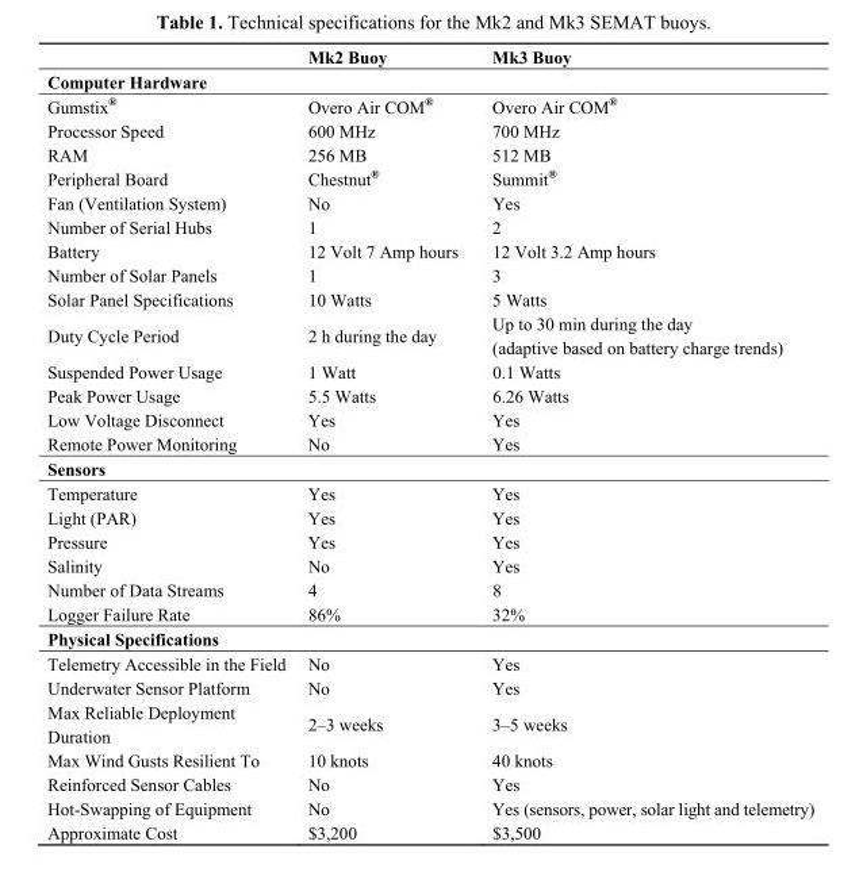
<table><thead><tr><td></td><td>Mk2 Buoy</td><td>Mk3 Buoy</td></tr><tr><td colspan="3">Computer Hardware</td></tr></thead><tbody><tr><td>Gumstix<sup>®</sup></td><td>Overo Air COM<sup>®</sup></td><td>Overo Air COM<sup>®</sup></td></tr><tr><td>Processor Speed</td><td>600 MHz</td><td>700 MHz</td></tr><tr><td>RAM</td><td>256 MB</td><td>512 MB</td></tr><tr><td>Peripheral Board</td><td>Chestnut<sup>®</sup></td><td>Summit<sup>®</sup></td></tr><tr><td>Fan (Ventilation System)</td><td>No</td><td>Yes</td></tr><tr><td>Number of Serial Hubs</td><td>1</td><td>2</td></tr><tr><td>Battery</td><td>12 Volt 7 Amp hours</td><td>12 Volt 3.2 Amp hours</td></tr><tr><td>Number of Solar Panels</td><td>1</td><td>3</td></tr><tr><td>Solar Panel Specifications</td><td>10 Watts</td><td>5 Watts</td></tr><tr><td>Duty Cycle Period</td><td>2 h during the day</td><td>Up to 30 min during the day (adaptive based on battery charge trends)</td></tr><tr><td>Suspended Power Usage</td><td>1 Watt</td><td>0.1 Watts</td></tr><tr><td>Peak Power Usage</td><td>5.5 Watts</td><td>6.26 Watts</td></tr><tr><td>Low Voltage Disconnect</td><td>Yes</td><td>Yes</td></tr><tr><td>Remote Power Monitoring</td><td>No</td><td>Yes</td></tr><tr><td colspan="3">Sensors</td></tr><tr><td>Temperature</td><td>Yes</td><td>Yes</td></tr><tr><td>Light (PAR)</td><td>Yes</td><td>Yes</td></tr><tr><td>Pressure</td><td>Yes</td><td>Yes</td></tr><tr><td>Salinity</td><td>No</td><td>Yes</td></tr><tr><td>Number of Data Streams</td><td>4</td><td>8</td></tr><tr><td>Logger Failure Rate</td><td>86%</td><td>32%</td></tr><tr><td colspan="3">Physical Specifications</td></tr><tr><td>Telemetry Accessible in the Field</td><td>No</td><td>Yes</td></tr><tr><td>Underwater Sensor Platform</td><td>No</td><td>Yes</td></tr><tr><td>Max Reliable Deployment Duration</td><td>2–3 weeks</td><td>3–5 weeks</td></tr><tr><td>Max Wind Gusts Resilient To</td><td>10 knots</td><td>40 knots</td></tr><tr><td>Reinforced Sensor Cables</td><td>No</td><td>Yes</td></tr><tr><td>Hot-Swapping of Equipment</td><td>No</td><td>Yes (sensors, power, solar light and telemetry)</td></tr><tr><td>Approximate Cost</td><td>$3,200</td><td>$3,500</td></tr></tbody></table>